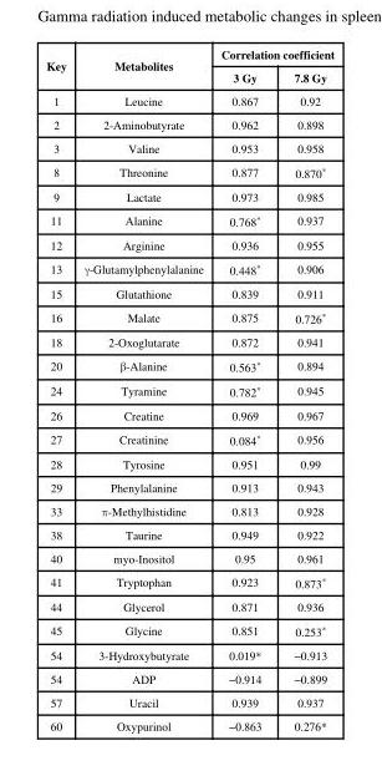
<table><thead><tr><td rowspan="2">Key</td><td rowspan="2">Metabolites</td><td colspan="2">Correlation coefficient</td></tr><tr><td>3 Gy</td><td>7.8 Gy</td></tr></thead><tbody><tr><td>1</td><td>Leucine</td><td>0.867</td><td>0.92</td></tr><tr><td>2</td><td>2-Aminobutyrate</td><td>0.962</td><td>0.898</td></tr><tr><td>3</td><td>Valine</td><td>0.953</td><td>0.958</td></tr><tr><td>8</td><td>Threonine</td><td>0.877</td><td>0.870*</td></tr><tr><td>9</td><td>Lactate</td><td>0.973</td><td>0.985</td></tr><tr><td>11</td><td>Alanine</td><td>0.768*</td><td>0.937</td></tr><tr><td>12</td><td>Arginine</td><td>0.936</td><td>0.955</td></tr><tr><td>13</td><td>γ-Glutamylphenylalanine</td><td>0.448*</td><td>0.906</td></tr><tr><td>15</td><td>Glutathione</td><td>0.839</td><td>0.911</td></tr><tr><td>16</td><td>Malate</td><td>0.875</td><td>0.726*</td></tr><tr><td>18</td><td>2-Oxoglutarate</td><td>0.872</td><td>0.941</td></tr><tr><td>20</td><td>β-Alanine</td><td>0.563*</td><td>0.894</td></tr><tr><td>24</td><td>Tyramine</td><td>0.782*</td><td>0.945</td></tr><tr><td>26</td><td>Creatine</td><td>0.969</td><td>0.967</td></tr><tr><td>27</td><td>Creatinine</td><td>0.084*</td><td>0.956</td></tr><tr><td>28</td><td>Tyrosine</td><td>0.951</td><td>0.99</td></tr><tr><td>29</td><td>Phenylalanine</td><td>0.913</td><td>0.943</td></tr><tr><td>33</td><td>π-Methylhistidine</td><td>0.813</td><td>0.928</td></tr><tr><td>38</td><td>Taurine</td><td>0.949</td><td>0.922</td></tr><tr><td>40</td><td>myo-Inositol</td><td>0.95</td><td>0.961</td></tr><tr><td>41</td><td>Tryptophan</td><td>0.923</td><td>0.873*</td></tr><tr><td>44</td><td>Glycerol</td><td>0.871</td><td>0.936</td></tr><tr><td>45</td><td>Glycine</td><td>0.851</td><td>0.253*</td></tr><tr><td>54</td><td>3-Hydroxybutyrate</td><td>0.019*</td><td>−0.913</td></tr><tr><td>54</td><td>ADP</td><td>−0.914</td><td>−0.899</td></tr><tr><td>57</td><td>Uracil</td><td>0.939</td><td>0.937</td></tr><tr><td>60</td><td>Oxypurinol</td><td>−0.863</td><td>0.276*</td></tr></tbody></table>